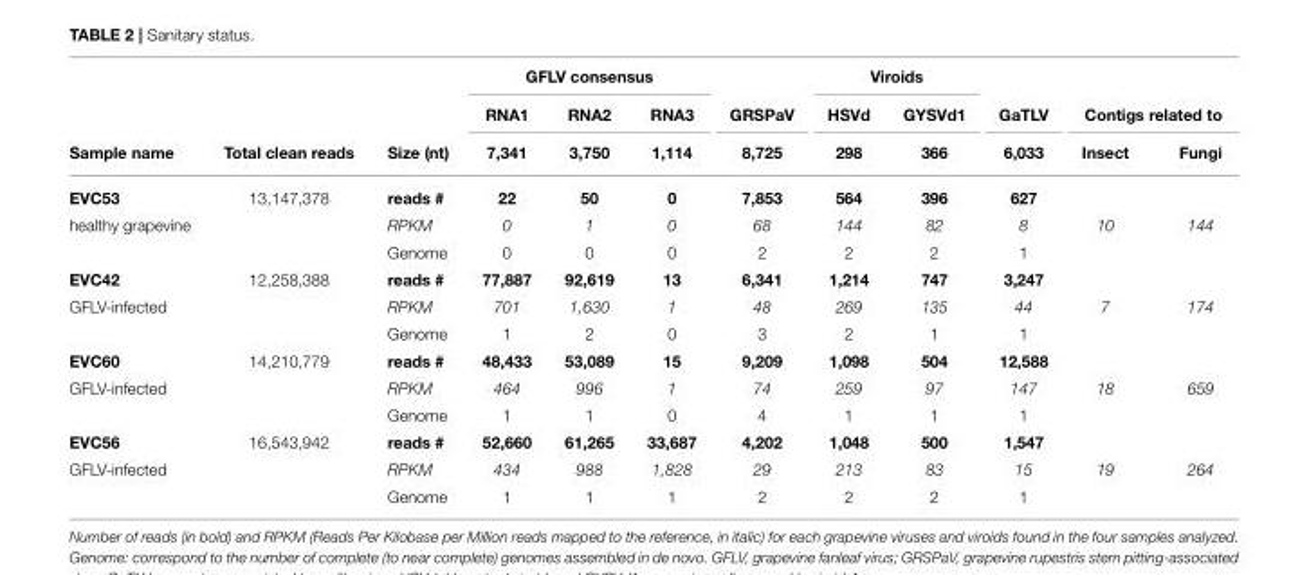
<table><thead><tr><td rowspan="3">Sample name</td><td rowspan="3">Total clean reads</td><td rowspan="3">Size (nt)</td><td colspan="3">GFLV consensus</td><td rowspan="3">GRSPaV 8,725</td><td colspan="2">Viroids</td><td rowspan="3">GaTLV 6,033</td><td></td><td></td></tr><tr><td rowspan="2">RNA1 7,341</td><td rowspan="2">RNA2 3,750</td><td rowspan="2">RNA3 1,114</td><td rowspan="2">HSVd 298</td><td rowspan="2">GYSVd1 366</td><td colspan="2">Contigs related to</td></tr><tr><td>Insect</td><td>Fungi</td></tr></thead><tbody><tr><td>EVC53</td><td>13,147,378</td><td>reads #</td><td>22</td><td>50</td><td>0</td><td>7,853</td><td>564</td><td>396</td><td>627</td><td></td><td></td></tr><tr><td rowspan="2">healthy grapevine</td><td></td><td>RPKM</td><td>0</td><td>1</td><td>0</td><td>68</td><td>144</td><td>82</td><td>8</td><td>10</td><td>144</td></tr><tr><td></td><td>Genome</td><td>0</td><td>0</td><td>0</td><td>2</td><td>2</td><td>2</td><td>1</td><td></td><td></td></tr><tr><td>EVC42</td><td>12,258,388</td><td>reads #</td><td>77,887</td><td>92,619</td><td>13</td><td>6,341</td><td>1,214</td><td>747</td><td>3,247</td><td></td><td></td></tr><tr><td rowspan="2">GFLV-infected</td><td></td><td>RPKM</td><td>701</td><td>1,630</td><td>1</td><td>48</td><td>269</td><td>135</td><td>44</td><td>7</td><td>174</td></tr><tr><td></td><td>Genome</td><td>1</td><td>2</td><td>0</td><td>3</td><td>2</td><td>1</td><td>1</td><td></td><td></td></tr><tr><td>EVC60</td><td>14,210,779</td><td>reads #</td><td>48,433</td><td>53,089</td><td>15</td><td>9,209</td><td>1,098</td><td>504</td><td>12,588</td><td></td><td></td></tr><tr><td rowspan="2">GFLV-infected</td><td></td><td>RPKM</td><td>464</td><td>996</td><td>1</td><td>74</td><td>259</td><td>97</td><td>147</td><td>18</td><td>659</td></tr><tr><td></td><td>Genome</td><td>1</td><td>1</td><td>0</td><td>4</td><td>1</td><td>1</td><td>1</td><td></td><td></td></tr><tr><td>EVC56</td><td>16,543,942</td><td>reads #</td><td>52,660</td><td>61,265</td><td>33,687</td><td>4,202</td><td>1,048</td><td>500</td><td>1,547</td><td></td><td></td></tr><tr><td rowspan="2">GFLV-infected</td><td></td><td>RPKM</td><td>434</td><td>988</td><td>1,828</td><td>29</td><td>213</td><td>83</td><td>15</td><td>19</td><td>264</td></tr><tr><td></td><td>Genome</td><td>1</td><td>1</td><td>1</td><td>2</td><td>2</td><td>2</td><td>1</td><td></td><td></td></tr></tbody></table>